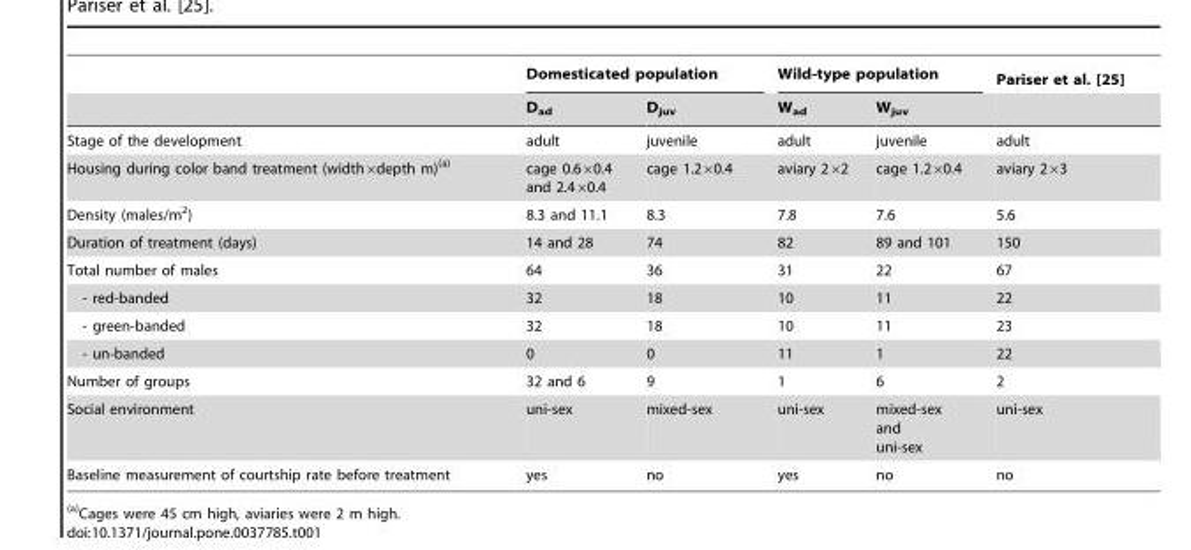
<table><thead><tr><td rowspan="2"></td><td colspan="2">Domesticated population</td><td colspan="2">Wild-type population</td><td rowspan="2">Pariser et al. [25]</td></tr><tr><td>D<sub>ad</sub></td><td>D<sub>juv</sub></td><td>W<sub>ad</sub></td><td>W<sub>juv</sub></td></tr></thead><tbody><tr><td>Stage of the development</td><td>adult</td><td>juvenile</td><td>adult</td><td>juvenile</td><td>adult</td></tr><tr><td>Housing during color band treatment (width×depth m)(a)</td><td>cage 0.6×0.4 and 2.4×0.4</td><td>cage 1.2×0.4</td><td>aviary 2×2</td><td>cage 1.2×0.4</td><td>aviary 2×3</td></tr><tr><td>Density (males/m<sup>2</sup>)</td><td>8.3 and 11.1</td><td>8.3</td><td>7.8</td><td>7.6</td><td>5.6</td></tr><tr><td>Duration of treatment (days)</td><td>14 and 28</td><td>74</td><td>82</td><td>89 and 101</td><td>150</td></tr><tr><td>Total number of males</td><td>64</td><td>36</td><td>31</td><td>22</td><td>67</td></tr><tr><td>- red-banded</td><td>32</td><td>18</td><td>10</td><td>11</td><td>22</td></tr><tr><td>- green-banded</td><td>32</td><td>18</td><td>10</td><td>11</td><td>23</td></tr><tr><td>- un-banded</td><td>0</td><td>0</td><td>11</td><td>1</td><td>22</td></tr><tr><td>Number of groups</td><td>32 and 6</td><td>9</td><td>1</td><td>6</td><td>2</td></tr><tr><td>Social environment</td><td>uni-sex</td><td>mixed-sex</td><td>uni-sex</td><td>mixed-sex and uni-sex</td><td>uni-sex</td></tr><tr><td>Baseline measurement of courtship rate before treatment</td><td>yes</td><td>no</td><td>yes</td><td>no</td><td>no</td></tr></tbody></table>